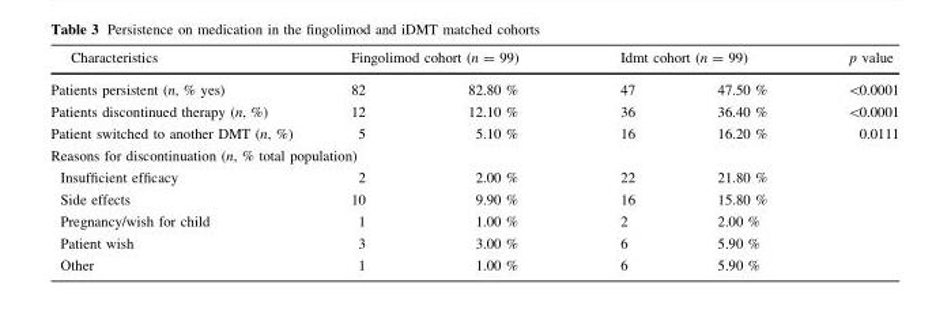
<table><thead><tr><td rowspan="2">Characteristics Patients persistent (n, % yes)</td><td colspan="2">Fingolimod cohort (n = 99)</td><td colspan="2">Idmt cohort (n = 99)</td><td rowspan="2">p value &lt;0.0001</td></tr><tr><td>82</td><td>82.80 %</td><td>47</td><td>47.50 %</td></tr></thead><tbody><tr><td>Patients discontinued therapy (n, %)</td><td>12</td><td>12.10 %</td><td>36</td><td>36.40 %</td><td>&lt;0.0001</td></tr><tr><td>Patient switched to another DMT (n, %)</td><td>5</td><td>5.10 %</td><td>16</td><td>16.20 %</td><td>0.0111</td></tr><tr><td colspan="6">Reasons for discontinuation (n, % total population)</td></tr><tr><td>Insufficient efficacy</td><td>2</td><td>2.00 %</td><td>22</td><td>21.80 %</td><td></td></tr><tr><td>Side effects</td><td>10</td><td>9.90 %</td><td>16</td><td>15.80 %</td><td></td></tr><tr><td>Pregnancy/wish for child</td><td>1</td><td>1.00 %</td><td>2</td><td>2.00 %</td><td></td></tr><tr><td>Patient wish</td><td>3</td><td>3.00 %</td><td>6</td><td>5.90 %</td><td></td></tr><tr><td>Other</td><td>1</td><td>1.00 %</td><td>6</td><td>5.90 %</td><td></td></tr></tbody></table>